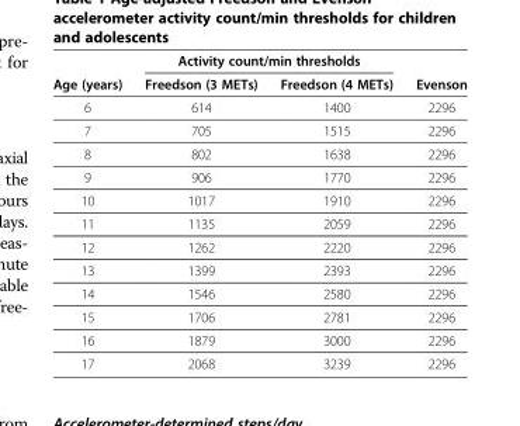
<table><thead><tr><td rowspan="2">Age (years)</td><td colspan="2">Activity count/min thresholds</td><td rowspan="2">Evenson</td></tr><tr><td>Freedson (3 METs)</td><td>Freedson (4 METs)</td></tr></thead><tbody><tr><td>6</td><td>614</td><td>1400</td><td>2296</td></tr><tr><td>7</td><td>705</td><td>1515</td><td>2296</td></tr><tr><td>8</td><td>802</td><td>1638</td><td>2296</td></tr><tr><td>9</td><td>906</td><td>1770</td><td>2296</td></tr><tr><td>10</td><td>1017</td><td>1910</td><td>2296</td></tr><tr><td>11</td><td>1135</td><td>2059</td><td>2296</td></tr><tr><td>12</td><td>1262</td><td>2220</td><td>2296</td></tr><tr><td>13</td><td>1399</td><td>2393</td><td>2296</td></tr><tr><td>14</td><td>1546</td><td>2580</td><td>2296</td></tr><tr><td>15</td><td>1706</td><td>2781</td><td>2296</td></tr><tr><td>16</td><td>1879</td><td>3000</td><td>2296</td></tr><tr><td>17</td><td>2068</td><td>3239</td><td>2296</td></tr></tbody></table>